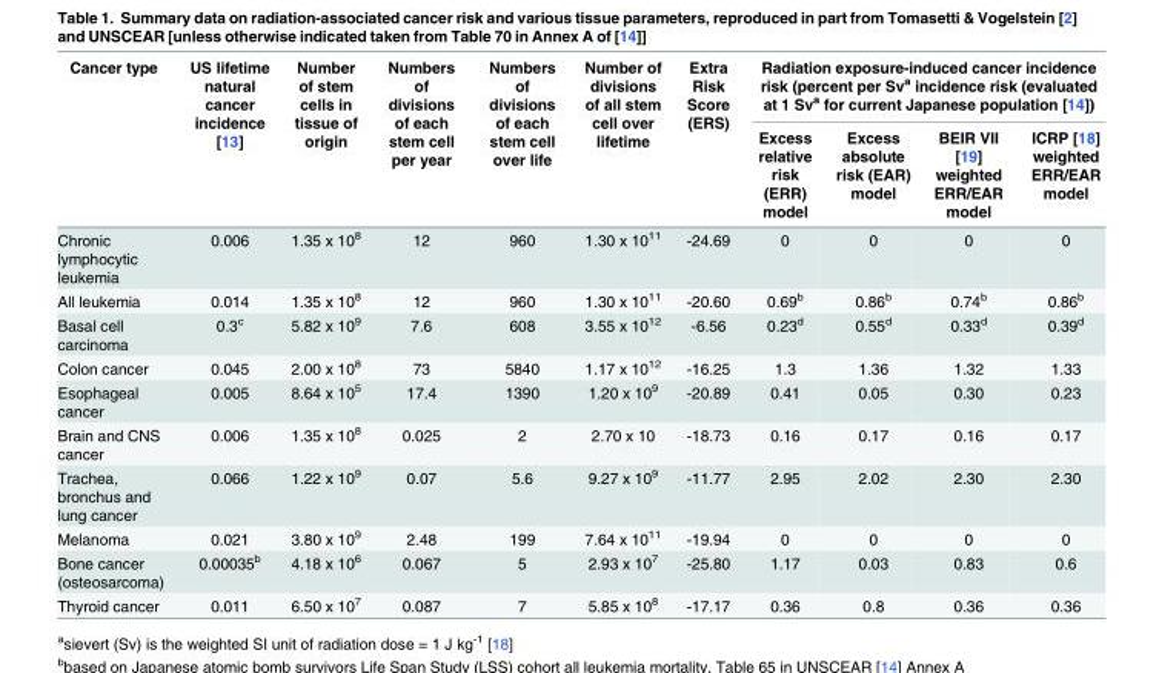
<table><thead><tr><td rowspan="2">Cancer type</td><td rowspan="2">US lifetime natural cancer incidence [13]</td><td rowspan="2">Number of stem cells in tissue of origin</td><td rowspan="2">Numbers of divisions of each stem cell per year</td><td rowspan="2">Numbers of divisions of each stem cell over life</td><td rowspan="2">Number of divisions of all stem cell over lifetime</td><td rowspan="2">Extra Risk Score (ERS)</td><td colspan="4">Radiation exposure-induced cancer incidence risk (percent per Sv<sup>a</sup> incidence risk (evaluated at 1 Sv<sup>a</sup> for current Japanese population [14])</td></tr><tr><td>Excess relative risk (ERR) model</td><td>Excess absolute risk (EAR) model</td><td>BEIR VII [19] weighted ERR/EAR model</td><td>ICRP [18] weighted ERR/EAR model</td></tr></thead><tbody><tr><td>Chronic lymphocytic leukemia</td><td>0.006</td><td>1.35 x 10<sup>8</sup></td><td>12</td><td>960</td><td>1.30 x 10<sup>11</sup></td><td>-24.69</td><td>0</td><td>0</td><td>0</td><td>0</td></tr><tr><td>All leukemia</td><td>0.014</td><td>1.35 x 10<sup>8</sup></td><td>12</td><td>960</td><td>1.30 x 10<sup>11</sup></td><td>-20.60</td><td>0.69<sup>b</sup></td><td>0.86<sup>b</sup></td><td>0.74<sup>b</sup></td><td>0.86<sup>b</sup></td></tr><tr><td>Basal cell carcinoma</td><td>0.3<sup>c</sup></td><td>5.82 x 10<sup>9</sup></td><td>7.6</td><td>608</td><td>3.55 x 10<sup>12</sup></td><td>-6.56</td><td>0.23<sup>d</sup></td><td>0.55<sup>d</sup></td><td>0.33<sup>d</sup></td><td>0.39<sup>d</sup></td></tr><tr><td>Colon cancer</td><td>0.045</td><td>2.00 x 10<sup>8</sup></td><td>73</td><td>5840</td><td>1.17 x 10<sup>12</sup></td><td>-16.25</td><td>1.3</td><td>1.36</td><td>1.32</td><td>1.33</td></tr><tr><td>Esophageal cancer</td><td>0.005</td><td>8.64 x 10<sup>5</sup></td><td>17.4</td><td>1390</td><td>1.20 x 10<sup>9</sup></td><td>-20.89</td><td>0.41</td><td>0.05</td><td>0.30</td><td>0.23</td></tr><tr><td>Brain and CNS cancer</td><td>0.006</td><td>1.35 x 10<sup>8</sup></td><td>0.025</td><td>2</td><td>2.70 x 10</td><td>-18.73</td><td>0.16</td><td>0.17</td><td>0.16</td><td>0.17</td></tr><tr><td>Trachea, bronchus and lung cancer</td><td>0.066</td><td>1.22 x 10<sup>9</sup></td><td>0.07</td><td>5.6</td><td>9.27 x 10<sup>9</sup></td><td>-11.77</td><td>2.95</td><td>2.02</td><td>2.30</td><td>2.30</td></tr><tr><td>Melanoma</td><td>0.021</td><td>3.80 x 10<sup>9</sup></td><td>2.48</td><td>199</td><td>7.64 x 10<sup>11</sup></td><td>-19.94</td><td>0</td><td>0</td><td>0</td><td>0</td></tr><tr><td>Bone cancer (osteosarcoma)</td><td>0.00035<sup>b</sup></td><td>4.18 x 10<sup>6</sup></td><td>0.067</td><td>5</td><td>2.93 x 10<sup>7</sup></td><td>-25.80</td><td>1.17</td><td>0.03</td><td>0.83</td><td>0.6</td></tr><tr><td>Thyroid cancer</td><td>0.011</td><td>6.50 x 10<sup>7</sup></td><td>0.087</td><td>7</td><td>5.85 x 10<sup>8</sup></td><td>-17.17</td><td>0.36</td><td>0.8</td><td>0.36</td><td>0.36</td></tr></tbody></table>